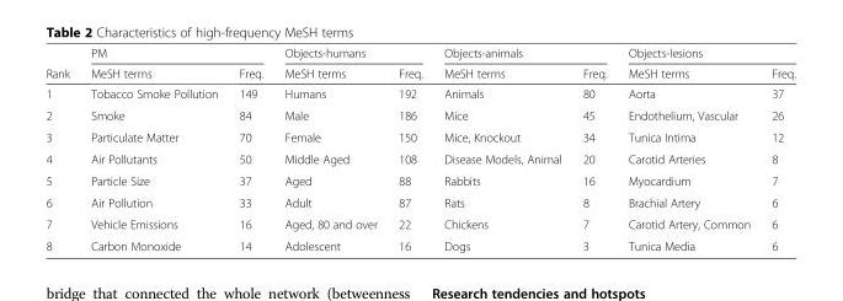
<table><thead><tr><td rowspan="2">Rank</td><td colspan="2">PM</td><td colspan="2">Objects-humans</td><td colspan="2">Objects-animals</td><td colspan="2">Objects-lesions</td></tr><tr><td>MeSH terms</td><td>Freq.</td><td>MeSH terms</td><td>Freq.</td><td>MeSH terms</td><td>Freq.</td><td>MeSH terms</td><td>Freq.</td></tr></thead><tbody><tr><td>1</td><td>Tobacco Smoke Pollution</td><td>149</td><td>Humans</td><td>192</td><td>Animals</td><td>80</td><td>Aorta</td><td>37</td></tr><tr><td>2</td><td>Smoke</td><td>84</td><td>Male</td><td>186</td><td>Mice</td><td>45</td><td>Endothelium, Vascular</td><td>26</td></tr><tr><td>3</td><td>Particulate Matter</td><td>70</td><td>Female</td><td>150</td><td>Mice, Knockout</td><td>34</td><td>Tunica Intima</td><td>12</td></tr><tr><td>4</td><td>Air Pollutants</td><td>50</td><td>Middle Aged</td><td>108</td><td>Disease Models, Animal</td><td>20</td><td>Carotid Arteries</td><td>8</td></tr><tr><td>5</td><td>Particle Size</td><td>37</td><td>Aged</td><td>88</td><td>Rabbits</td><td>16</td><td>Myocardium</td><td>7</td></tr><tr><td>6</td><td>Air Pollution</td><td>33</td><td>Adult</td><td>87</td><td>Rats</td><td>8</td><td>Brachial Artery</td><td>6</td></tr><tr><td>7</td><td>Vehicle Emissions</td><td>16</td><td>Aged, 80 and over</td><td>22</td><td>Chickens</td><td>7</td><td>Carotid Artery, Common</td><td>6</td></tr><tr><td>8</td><td>Carbon Monoxide</td><td>14</td><td>Adolescent</td><td>16</td><td>Dogs</td><td>3</td><td>Tunica Media</td><td>6</td></tr></tbody></table>